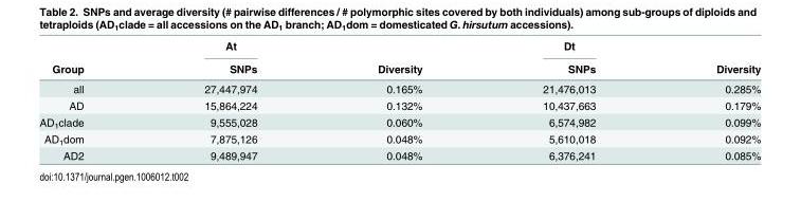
<table><thead><tr><td rowspan="2">Group</td><td rowspan="2">At SNPs</td><td rowspan="2">Diversity</td><td rowspan="2">Dt SNPs</td><td rowspan="2">Diversity</td></tr><tr></tr></thead><tbody><tr><td>all</td><td>27,447,974</td><td>0.165%</td><td>21,476,013</td><td>0.285%</td></tr><tr><td>AD</td><td>15,864,224</td><td>0.132%</td><td>10,437,663</td><td>0.179%</td></tr><tr><td>AD<sub>1</sub>clade</td><td>9,555,028</td><td>0.060%</td><td>6,574,982</td><td>0.099%</td></tr><tr><td>AD<sub>1</sub>dom</td><td>7,875,126</td><td>0.048%</td><td>5,610,018</td><td>0.092%</td></tr><tr><td>AD2</td><td>9,489,947</td><td>0.048%</td><td>6,376,241</td><td>0.085%</td></tr></tbody></table>